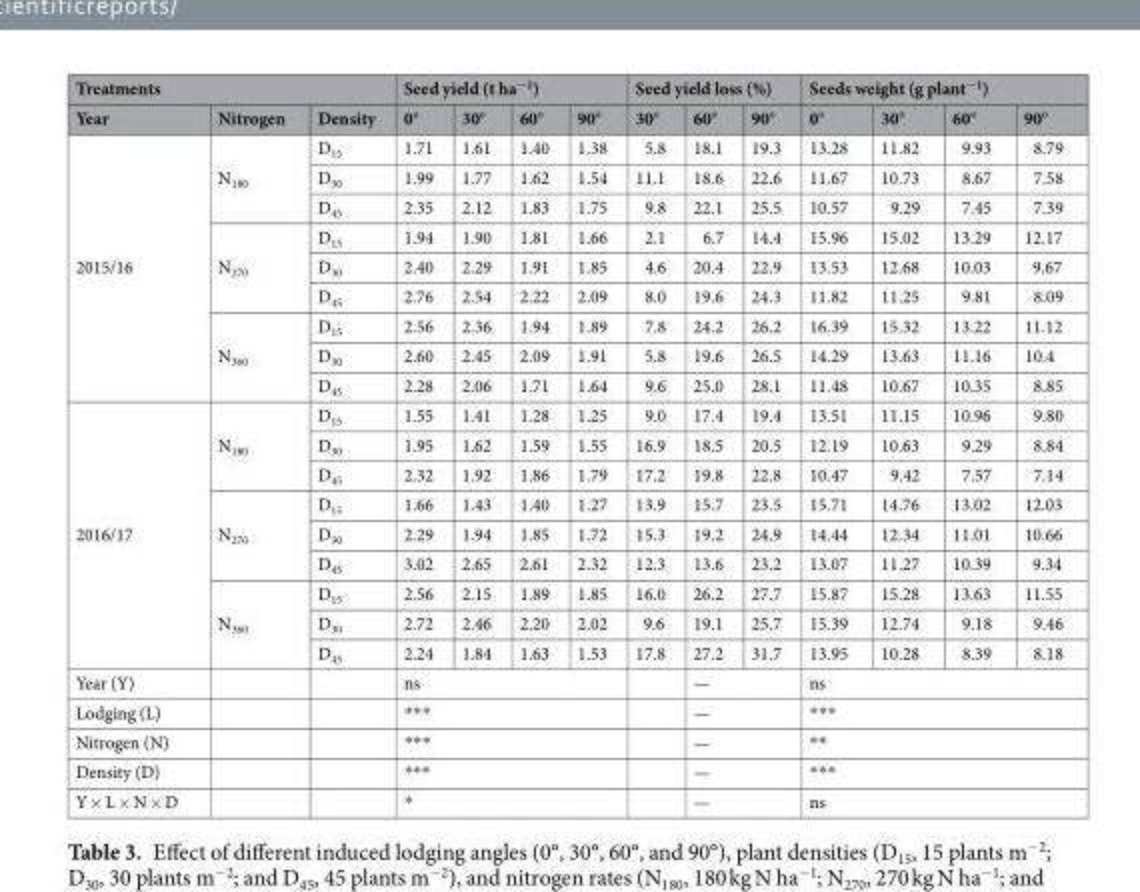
<table><thead><tr><td colspan="3">Treatments</td><td colspan="4">Seed yield (t ha<sup>−1</sup>)</td><td colspan="3">Seed yield loss (%)</td><td colspan="4">Seeds weight (g plant<sup>−1</sup>)</td></tr><tr><td>Year</td><td>Nitrogen</td><td>Density</td><td>0°</td><td>30°</td><td>60°</td><td>90°</td><td>30°</td><td>60°</td><td>90°</td><td>0°</td><td>30°</td><td>60°</td><td>90°</td></tr></thead><tbody><tr><td rowspan="9">2015/16</td><td rowspan="3">N<sub>180</sub></td><td>D<sub>15</sub></td><td>1.71</td><td>1.61</td><td>1.40</td><td>1.38</td><td>5.8</td><td>18.1</td><td>19.3</td><td>13.28</td><td>11.82</td><td>9.93</td><td>8.79</td></tr><tr><td>D<sub>30</sub></td><td>1.99</td><td>1.77</td><td>1.62</td><td>1.54</td><td>11.1</td><td>18.6</td><td>22.6</td><td>11.67</td><td>10.73</td><td>8.67</td><td>7.58</td></tr><tr><td>D<sub>45</sub></td><td>2.35</td><td>2.12</td><td>1.83</td><td>1.75</td><td>9.8</td><td>22.1</td><td>25.5</td><td>10.57</td><td>9.29</td><td>7.45</td><td>7.39</td></tr><tr><td rowspan="3">N<sub>270</sub></td><td>D<sub>15</sub></td><td>1.94</td><td>1.90</td><td>1.81</td><td>1.66</td><td>2.1</td><td>6.7</td><td>14.4</td><td>15.96</td><td>15.02</td><td>13.29</td><td>12.17</td></tr><tr><td>D<sub>30</sub></td><td>2.40</td><td>2.29</td><td>1.91</td><td>1.85</td><td>4.6</td><td>20.4</td><td>22.9</td><td>13.53</td><td>12.68</td><td>10.03</td><td>9.67</td></tr><tr><td>D<sub>45</sub></td><td>2.76</td><td>2.54</td><td>2.22</td><td>2.09</td><td>8.0</td><td>19.6</td><td>24.3</td><td>11.82</td><td>11.25</td><td>9.81</td><td>8.09</td></tr><tr><td rowspan="3">N<sub>360</sub></td><td>D<sub>15</sub></td><td>2.56</td><td>2.36</td><td>1.94</td><td>1.89</td><td>7.8</td><td>24.2</td><td>26.2</td><td>16.39</td><td>15.32</td><td>13.22</td><td>11.12</td></tr><tr><td>D<sub>30</sub></td><td>2.60</td><td>2.45</td><td>2.09</td><td>1.91</td><td>5.8</td><td>19.6</td><td>26.5</td><td>14.29</td><td>13.63</td><td>11.16</td><td>10.4</td></tr><tr><td>D<sub>45</sub></td><td>2.28</td><td>2.06</td><td>1.71</td><td>1.64</td><td>9.6</td><td>25.0</td><td>28.1</td><td>11.48</td><td>10.67</td><td>10.35</td><td>8.85</td></tr><tr><td rowspan="9">2016/17</td><td rowspan="3">N<sub>180</sub></td><td>D<sub>15</sub></td><td>1.55</td><td>1.41</td><td>1.28</td><td>1.25</td><td>9.0</td><td>17.4</td><td>19.4</td><td>13.51</td><td>11.15</td><td>10.96</td><td>9.80</td></tr><tr><td>D<sub>30</sub></td><td>1.95</td><td>1.62</td><td>1.59</td><td>1.55</td><td>16.9</td><td>18.5</td><td>20.5</td><td>12.19</td><td>10.63</td><td>9.29</td><td>8.84</td></tr><tr><td>D<sub>45</sub></td><td>2.32</td><td>1.92</td><td>1.86</td><td>1.79</td><td>17.2</td><td>19.8</td><td>22.8</td><td>10.47</td><td>9.42</td><td>7.57</td><td>7.14</td></tr><tr><td rowspan="3">N<sub>270</sub></td><td>D<sub>15</sub></td><td>1.66</td><td>1.43</td><td>1.40</td><td>1.27</td><td>13.9</td><td>15.7</td><td>23.5</td><td>15.71</td><td>14.76</td><td>13.02</td><td>12.03</td></tr><tr><td>D<sub>30</sub></td><td>2.29</td><td>1.94</td><td>1.85</td><td>1.72</td><td>15.3</td><td>19.2</td><td>24.9</td><td>14.44</td><td>12.34</td><td>11.01</td><td>10.66</td></tr><tr><td>D<sub>45</sub></td><td>3.02</td><td>2.65</td><td>2.61</td><td>2.32</td><td>12.3</td><td>13.6</td><td>23.2</td><td>13.07</td><td>11.27</td><td>10.39</td><td>9.34</td></tr><tr><td rowspan="3">N<sub>360</sub></td><td>D<sub>15</sub></td><td>2.56</td><td>2.15</td><td>1.89</td><td>1.85</td><td>16.0</td><td>26.2</td><td>27.7</td><td>15.87</td><td>15.28</td><td>13.63</td><td>11.55</td></tr><tr><td>D<sub>30</sub></td><td>2.72</td><td>2.46</td><td>2.20</td><td>2.02</td><td>9.6</td><td>19.1</td><td>25.7</td><td>15.39</td><td>12.74</td><td>9.18</td><td>9.46</td></tr><tr><td>D<sub>45</sub></td><td>2.24</td><td>1.84</td><td>1.63</td><td>1.53</td><td>17.8</td><td>27.2</td><td>31.7</td><td>13.95</td><td>10.28</td><td>8.39</td><td>8.18</td></tr><tr><td>Year (Y)</td><td></td><td></td><td colspan="4">ns</td><td></td><td colspan="2">—</td><td colspan="4">ns</td></tr><tr><td>Lodging (L)</td><td></td><td></td><td colspan="4">***</td><td></td><td colspan="2">—</td><td colspan="4">***</td></tr><tr><td>Nitrogen (N)</td><td></td><td></td><td colspan="4">***</td><td></td><td colspan="2">—</td><td colspan="4">**</td></tr><tr><td>Density (D)</td><td></td><td></td><td colspan="4">***</td><td></td><td colspan="2">—</td><td colspan="4">***</td></tr><tr><td>Y × L × N × D</td><td></td><td></td><td colspan="4">*</td><td></td><td colspan="2">—</td><td colspan="4">ns</td></tr></tbody></table>